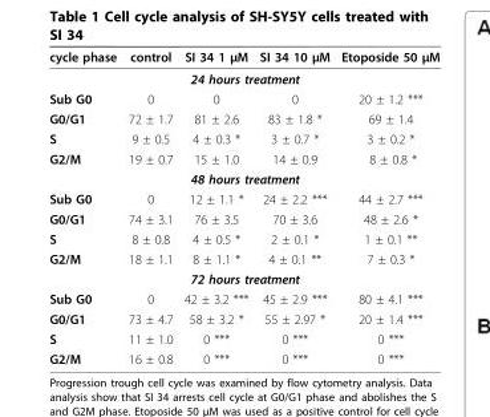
<table><thead><tr><td>cycle phase</td><td>control</td><td>SI 34 1 μM</td><td>SI 34 10 μM</td><td>Etoposide 50 μM</td></tr></thead><tbody><tr><td colspan="5">24 hours treatment</td></tr><tr><td>Sub G0</td><td>0</td><td>0</td><td>0</td><td>20 ± 1.2 ***</td></tr><tr><td>G0/G1</td><td>72 ± 1.7</td><td>81 ± 2.6</td><td>83 ± 1.8 *</td><td>69 ± 1.4</td></tr><tr><td>S</td><td>9 ± 0.5</td><td>4 ± 0.3 *</td><td>3 ± 0.7 *</td><td>3 ± 0.2 *</td></tr><tr><td>G2/M</td><td>19 ± 0.7</td><td>15 ± 1.0</td><td>14 ± 0.9</td><td>8 ± 0.8 *</td></tr><tr><td colspan="5">48 hours treatment</td></tr><tr><td>Sub G0</td><td>0</td><td>12 ± 1.1 *</td><td>24 ± 2.2 ***</td><td>44 ± 2.7 ***</td></tr><tr><td>G0/G1</td><td>74 ± 3.1</td><td>76 ± 3.5</td><td>70 ± 3.6</td><td>48 ± 2.6 *</td></tr><tr><td>S</td><td>8 ± 0.8</td><td>4 ± 0.5 *</td><td>2 ± 0.1 *</td><td>1 ± 0.1 **</td></tr><tr><td>G2/M</td><td>18 ± 1.1</td><td>8 ± 1.1 *</td><td>4 ± 0.1 **</td><td>7 ± 0.3 *</td></tr><tr><td colspan="5">72 hours treatment</td></tr><tr><td>Sub G0</td><td>0</td><td>42 ± 3.2 ***</td><td>45 ± 2.9 ***</td><td>80 ± 4.1 ***</td></tr><tr><td>G0/G1</td><td>73 ± 4.7</td><td>58 ± 3.2 *</td><td>55 ± 2.97 *</td><td>20 ± 1.4 ***</td></tr><tr><td>S</td><td>11 ± 1.0</td><td>0 ***</td><td>0 ***</td><td>0 ***</td></tr><tr><td>G2/M</td><td>16 ± 0.8</td><td>0 ***</td><td>0 ***</td><td>0 ***</td></tr></tbody></table>